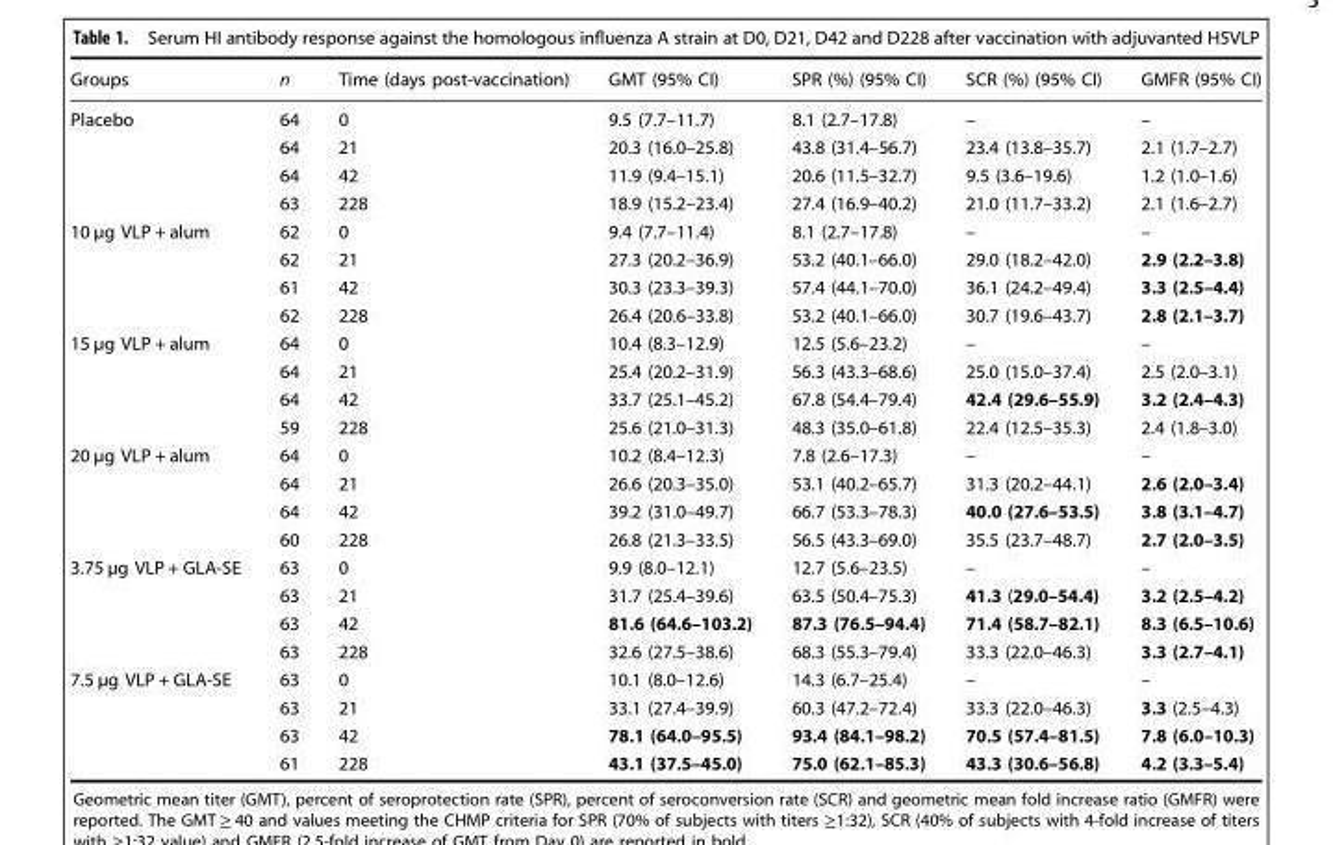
<table><thead><tr><td>Groups</td><td>n</td><td>Time (days post-vaccination)</td><td>GMT (95% CI)</td><td>SPR (%) (95% CI)</td><td>SCR (%) (95% CI)</td><td>GMFR (95% CI)</td></tr></thead><tbody><tr><td rowspan="4">Placebo</td><td>64</td><td>0</td><td>9.5 (7.7–11.7)</td><td>8.1 (2.7–17.8)</td><td>–</td><td>–</td></tr><tr><td>64</td><td>21</td><td>20.3 (16.0–25.8)</td><td>43.8 (31.4–56.7)</td><td>23.4 (13.8–35.7)</td><td>2.1 (1.7–2.7)</td></tr><tr><td>64</td><td>42</td><td>11.9 (9.4–15.1)</td><td>20.6 (11.5–32.7)</td><td>9.5 (3.6–19.6)</td><td>1.2 (1.0–1.6)</td></tr><tr><td>63</td><td>228</td><td>18.9 (15.2–23.4)</td><td>27.4 (16.9–40.2)</td><td>21.0 (11.7–33.2)</td><td>2.1 (1.6–2.7)</td></tr><tr><td rowspan="4">10 µg VLP + alum</td><td>62</td><td>0</td><td>9.4 (7.7–11.4)</td><td>8.1 (2.7–17.8)</td><td>–</td><td>–</td></tr><tr><td>62</td><td>21</td><td>27.3 (20.2–36.9)</td><td>53.2 (40.1–66.0)</td><td>29.0 (18.2–42.0)</td><td>2.9 (2.2–3.8)</td></tr><tr><td>61</td><td>42</td><td>30.3 (23.3–39.3)</td><td>57.4 (44.1–70.0)</td><td>36.1 (24.2–49.4)</td><td>3.3 (2.5–4.4)</td></tr><tr><td>62</td><td>228</td><td>26.4 (20.6–33.8)</td><td>53.2 (40.1–66.0)</td><td>30.7 (19.6–43.7)</td><td>2.8 (2.1–3.7)</td></tr><tr><td rowspan="4">15 µg VLP + alum</td><td>64</td><td>0</td><td>10.4 (8.3–12.9)</td><td>12.5 (5.6–23.2)</td><td>–</td><td>–</td></tr><tr><td>64</td><td>21</td><td>25.4 (20.2–31.9)</td><td>56.3 (43.3–68.6)</td><td>25.0 (15.0–37.4)</td><td>2.5 (2.0–3.1)</td></tr><tr><td>64</td><td>42</td><td>33.7 (25.1–45.2)</td><td>67.8 (54.4–79.4)</td><td>42.4 (29.6–55.9)</td><td>3.2 (2.4–4.3)</td></tr><tr><td>59</td><td>228</td><td>25.6 (21.0–31.3)</td><td>48.3 (35.0–61.8)</td><td>22.4 (12.5–35.3)</td><td>2.4 (1.8–3.0)</td></tr><tr><td rowspan="4">20 µg VLP + alum</td><td>64</td><td>0</td><td>10.2 (8.4–12.3)</td><td>7.8 (2.6–17.3)</td><td>–</td><td>–</td></tr><tr><td>64</td><td>21</td><td>26.6 (20.3–35.0)</td><td>53.1 (40.2–65.7)</td><td>31.3 (20.2–44.1)</td><td>2.6 (2.0–3.4)</td></tr><tr><td>64</td><td>42</td><td>39.2 (31.0–49.7)</td><td>66.7 (53.3–78.3)</td><td>40.0 (27.6–53.5)</td><td>3.8 (3.1–4.7)</td></tr><tr><td>60</td><td>228</td><td>26.8 (21.3–33.5)</td><td>56.5 (43.3–69.0)</td><td>35.5 (23.7–48.7)</td><td>2.7 (2.0–3.5)</td></tr><tr><td rowspan="4">3.75 µg VLP + GLA-SE</td><td>63</td><td>0</td><td>9.9 (8.0–12.1)</td><td>12.7 (5.6–23.5)</td><td>–</td><td>–</td></tr><tr><td>63</td><td>21</td><td>31.7 (25.4–39.6)</td><td>63.5 (50.4–75.3)</td><td>41.3 (29.0–54.4)</td><td>3.2 (2.5–4.2)</td></tr><tr><td>63</td><td>42</td><td>81.6 (64.6–103.2)</td><td>87.3 (76.5–94.4)</td><td>71.4 (58.7–82.1)</td><td>8.3 (6.5–10.6)</td></tr><tr><td>63</td><td>228</td><td>32.6 (27.5–38.6)</td><td>68.3 (55.3–79.4)</td><td>33.3 (22.0–46.3)</td><td>3.3 (2.7–4.1)</td></tr><tr><td rowspan="4">7.5 µg VLP + GLA-SE</td><td>63</td><td>0</td><td>10.1 (8.0–12.6)</td><td>14.3 (6.7–25.4)</td><td>–</td><td>–</td></tr><tr><td>63</td><td>21</td><td>33.1 (27.4–39.9)</td><td>60.3 (47.2–72.4)</td><td>33.3 (22.0–46.3)</td><td>3.3 (2.5–4.3)</td></tr><tr><td>63</td><td>42</td><td>78.1 (64.0–95.5)</td><td>93.4 (84.1–98.2)</td><td>70.5 (57.4–81.5)</td><td>7.8 (6.0–10.3)</td></tr><tr><td>61</td><td>228</td><td>43.1 (37.5–45.0)</td><td>75.0 (62.1–85.3)</td><td>43.3 (30.6–56.8)</td><td>4.2 (3.3–5.4)</td></tr></tbody></table>